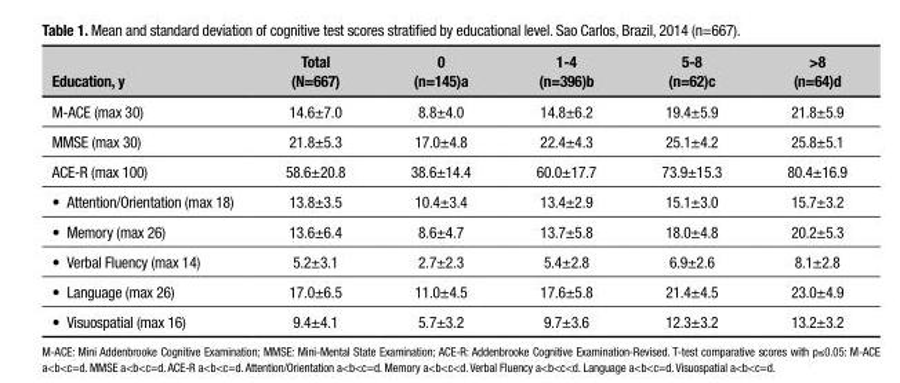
<table><thead><tr><td>Education, y</td><td>Total (N=667)</td><td>0 (n=145)a</td><td>1-4 (n=396)b</td><td>5-8 (n=62)c</td><td>&gt;8 (n=64)d</td></tr></thead><tbody><tr><td>M-ACE (max 30)</td><td>14.6±7.0</td><td>8.8±4.0</td><td>14.8±6.2</td><td>19.4±5.9</td><td>21.8±5.9</td></tr><tr><td>MMSE (max 30)</td><td>21.8±5.3</td><td>17.0±4.8</td><td>22.4±4.3</td><td>25.1±4.2</td><td>25.8±5.1</td></tr><tr><td>ACE-R (max 100)</td><td>58.6±20.8</td><td>38.6±14.4</td><td>60.0±17.7</td><td>73.9±15.3</td><td>80.4±16.9</td></tr><tr><td>• Attention/Orientation (max 18)</td><td>13.8±3.5</td><td>10.4±3.4</td><td>13.4±2.9</td><td>15.1±3.0</td><td>15.7±3.2</td></tr><tr><td>• Memory (max 26)</td><td>13.6±6.4</td><td>8.6±4.7</td><td>13.7±5.8</td><td>18.0±4.8</td><td>20.2±5.3</td></tr><tr><td>• Verbal Fluency (max 14)</td><td>5.2±3.1</td><td>2.7±2.3</td><td>5.4±2.8</td><td>6.9±2.6</td><td>8.1±2.8</td></tr><tr><td>• Language (max 26)</td><td>17.0±6.5</td><td>11.0±4.5</td><td>17.6±5.8</td><td>21.4±4.5</td><td>23.0±4.9</td></tr><tr><td>• Visuospatial (max 16)</td><td>9.4±4.1</td><td>5.7±3.2</td><td>9.7±3.6</td><td>12.3±3.2</td><td>13.2±3.2</td></tr></tbody></table>